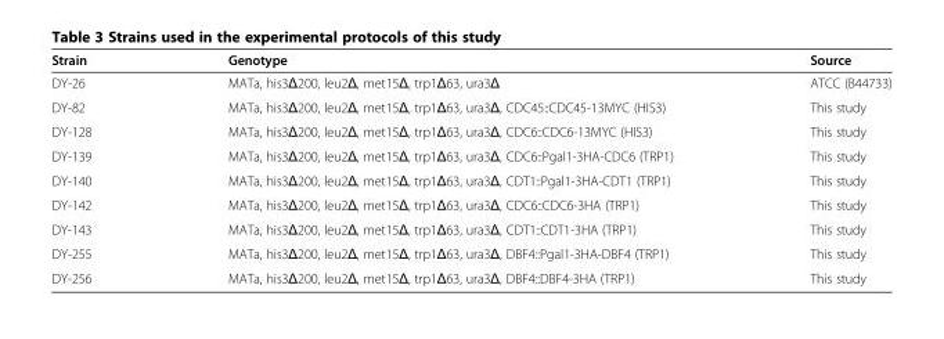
<table><thead><tr><td>Strain</td><td>Genotype</td><td>Source</td></tr></thead><tbody><tr><td>DY-26</td><td>MATa, his3Δ200, leu2Δ, met15Δ, trp1Δ63, ura3Δ</td><td>ATCC (B44733)</td></tr><tr><td>DY-82</td><td>MATa, his3Δ200, leu2Δ, met15Δ, trp1Δ63, ura3Δ, CDC45::CDC45-13MYC (HIS3)</td><td>This study</td></tr><tr><td>DY-128</td><td>MATa, his3Δ200, leu2Δ, met15Δ, trp1Δ63, ura3Δ, CDC6::CDC6-13MYC (HIS3)</td><td>This study</td></tr><tr><td>DY-139</td><td>MATa, his3Δ200, leu2Δ, met15Δ, trp1Δ63, ura3Δ, CDC6::Pgal1-3HA-CDC6 (TRP1)</td><td>This study</td></tr><tr><td>DY-140</td><td>MATa, his3Δ200, leu2Δ, met15Δ, trp1Δ63, ura3Δ, CDT1::Pgal1-3HA-CDT1 (TRP1)</td><td>This study</td></tr><tr><td>DY-142</td><td>MATa, his3Δ200, leu2Δ, met15Δ, trp1Δ63, ura3Δ, CDC6::CDC6-3HA (TRP1)</td><td>This study</td></tr><tr><td>DY-143</td><td>MATa, his3Δ200, leu2Δ, met15Δ, trp1Δ63, ura3Δ, CDT1::CDT1-3HA (TRP1)</td><td>This study</td></tr><tr><td>DY-255</td><td>MATa, his3Δ200, leu2Δ, met15Δ, trp1Δ63, ura3Δ, DBF4::Pgal1-3HA-DBF4 (TRP1)</td><td>This study</td></tr><tr><td>DY-256</td><td>MATa, his3Δ200, leu2Δ, met15Δ, trp1Δ63, ura3Δ, DBF4::DBF4-3HA (TRP1)</td><td>This study</td></tr></tbody></table>